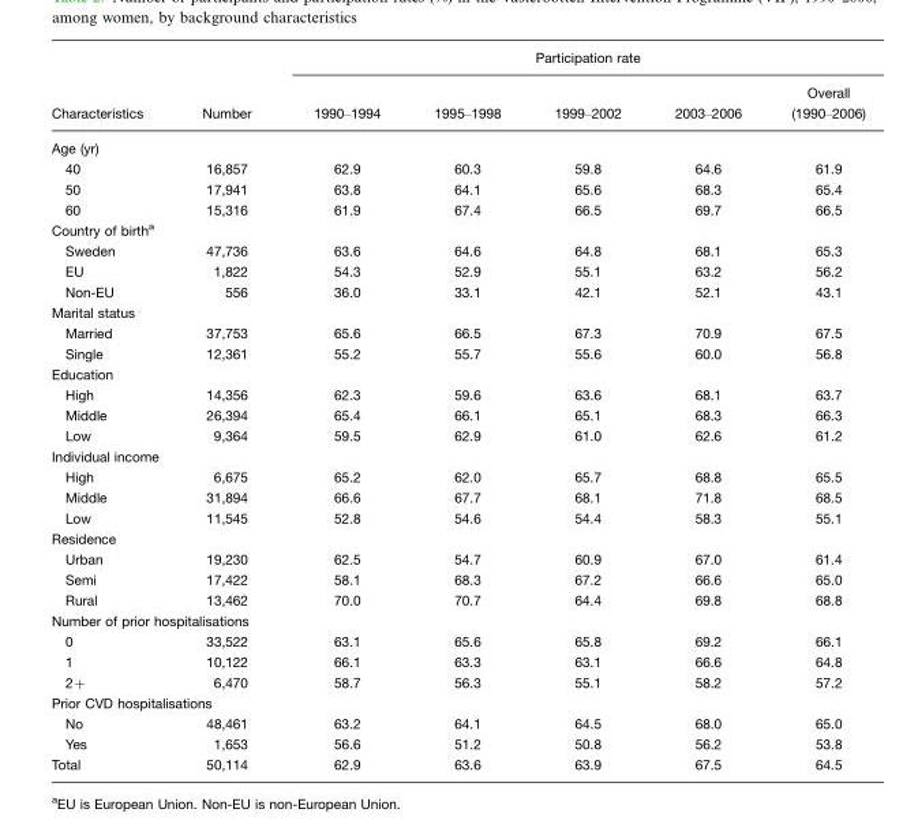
<table><thead><tr><td rowspan="2">Characteristics</td><td rowspan="2">Number</td><td colspan="5">Participation rate</td></tr><tr><td>1990–1994</td><td>1995–1998</td><td>1999–2002</td><td>2003–2006</td><td>Overall (1990–2006)</td></tr></thead><tbody><tr><td colspan="7">Age (yr)</td></tr><tr><td>40</td><td>16,857</td><td>62.9</td><td>60.3</td><td>59.8</td><td>64.6</td><td>61.9</td></tr><tr><td>50</td><td>17,941</td><td>63.8</td><td>64.1</td><td>65.6</td><td>68.3</td><td>65.4</td></tr><tr><td>60</td><td>15,316</td><td>61.9</td><td>67.4</td><td>66.5</td><td>69.7</td><td>66.5</td></tr><tr><td colspan="7">Country of birth<sup>a</sup></td></tr><tr><td>Sweden</td><td>47,736</td><td>63.6</td><td>64.6</td><td>64.8</td><td>68.1</td><td>65.3</td></tr><tr><td>EU</td><td>1,822</td><td>54.3</td><td>52.9</td><td>55.1</td><td>63.2</td><td>56.2</td></tr><tr><td>Non-EU</td><td>556</td><td>36.0</td><td>33.1</td><td>42.1</td><td>52.1</td><td>43.1</td></tr><tr><td colspan="7">Marital status</td></tr><tr><td>Married</td><td>37,753</td><td>65.6</td><td>66.5</td><td>67.3</td><td>70.9</td><td>67.5</td></tr><tr><td>Single</td><td>12,361</td><td>55.2</td><td>55.7</td><td>55.6</td><td>60.0</td><td>56.8</td></tr><tr><td colspan="7">Education</td></tr><tr><td>High</td><td>14,356</td><td>62.3</td><td>59.6</td><td>63.6</td><td>68.1</td><td>63.7</td></tr><tr><td>Middle</td><td>26,394</td><td>65.4</td><td>66.1</td><td>65.1</td><td>68.3</td><td>66.3</td></tr><tr><td>Low</td><td>9,364</td><td>59.5</td><td>62.9</td><td>61.0</td><td>62.6</td><td>61.2</td></tr><tr><td colspan="7">Individual income</td></tr><tr><td>High</td><td>6,675</td><td>65.2</td><td>62.0</td><td>65.7</td><td>68.8</td><td>65.5</td></tr><tr><td>Middle</td><td>31,894</td><td>66.6</td><td>67.7</td><td>68.1</td><td>71.8</td><td>68.5</td></tr><tr><td>Low</td><td>11,545</td><td>52.8</td><td>54.6</td><td>54.4</td><td>58.3</td><td>55.1</td></tr><tr><td colspan="7">Residence</td></tr><tr><td>Urban</td><td>19,230</td><td>62.5</td><td>54.7</td><td>60.9</td><td>67.0</td><td>61.4</td></tr><tr><td>Semi</td><td>17,422</td><td>58.1</td><td>68.3</td><td>67.2</td><td>66.6</td><td>65.0</td></tr><tr><td>Rural</td><td>13,462</td><td>70.0</td><td>70.7</td><td>64.4</td><td>69.8</td><td>68.8</td></tr><tr><td colspan="7">Number of prior hospitalisations</td></tr><tr><td>0</td><td>33,522</td><td>63.1</td><td>65.6</td><td>65.8</td><td>69.2</td><td>66.1</td></tr><tr><td>1</td><td>10,122</td><td>66.1</td><td>63.3</td><td>63.1</td><td>66.6</td><td>64.8</td></tr><tr><td>2+</td><td>6,470</td><td>58.7</td><td>56.3</td><td>55.1</td><td>58.2</td><td>57.2</td></tr><tr><td colspan="7">Prior CVD hospitalisations</td></tr><tr><td>No</td><td>48,461</td><td>63.2</td><td>64.1</td><td>64.5</td><td>68.0</td><td>65.0</td></tr><tr><td>Yes</td><td>1,653</td><td>56.6</td><td>51.2</td><td>50.8</td><td>56.2</td><td>53.8</td></tr><tr><td>Total</td><td>50,114</td><td>62.9</td><td>63.6</td><td>63.9</td><td>67.5</td><td>64.5</td></tr></tbody></table>